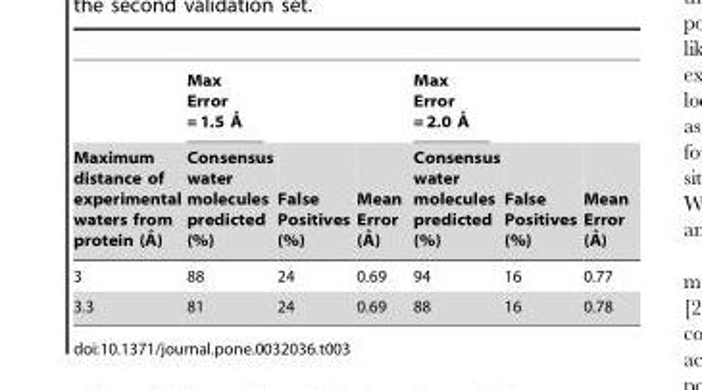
<table><thead><tr><td rowspan="2">Maximum distance of experimental waters from protein (A˚ )</td><td rowspan="2">Max Error = 1.5 A˚ Consensus water molecules predicted (%)</td><td rowspan="2">False Positives (%)</td><td rowspan="2">Mean Error (A˚ )</td><td rowspan="2">Max Error = 2.0 A˚ Consensus water molecules predicted (%)</td><td rowspan="2">False Positives (%)</td><td rowspan="2">Mean Error (A˚ )</td></tr><tr></tr></thead><tbody><tr><td>3</td><td>88</td><td>24</td><td>0.69</td><td>94</td><td>16</td><td>0.77</td></tr><tr><td>3.3</td><td>81</td><td>24</td><td>0.69</td><td>88</td><td>16</td><td>0.78</td></tr></tbody></table>